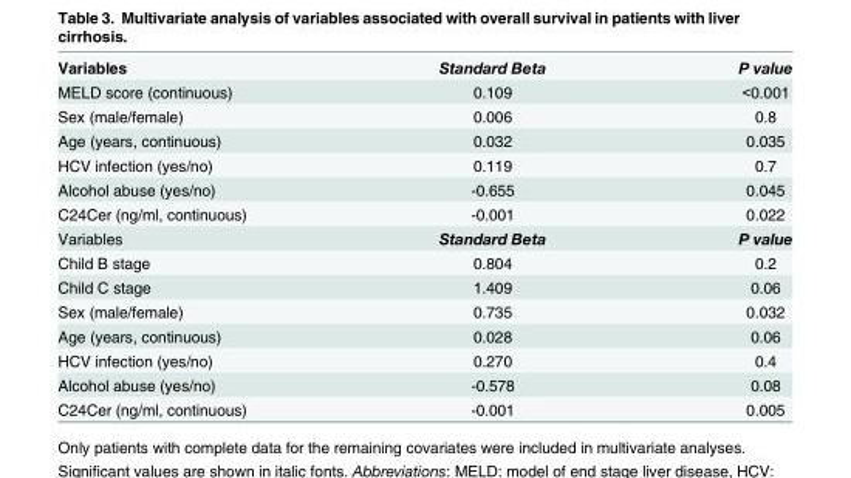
<table><tbody><tr><td>Variables</td><td>Standard Beta</td><td>P value</td></tr><tr><td>MELD score (continuous)</td><td>0.109</td><td>&lt;0.001</td></tr><tr><td>Sex (male/female)</td><td>0.006</td><td>0.8</td></tr><tr><td>Age (years, continuous)</td><td>0.032</td><td>0.035</td></tr><tr><td>HCV infection (yes/no)</td><td>0.119</td><td>0.7</td></tr><tr><td>Alcohol abuse (yes/no)</td><td>-0.655</td><td>0.045</td></tr><tr><td>C24Cer (ng/ml, continuous)</td><td>-0.001</td><td>0.022</td></tr><tr><td>Variables</td><td>Standard Beta</td><td>P value</td></tr><tr><td>Child B stage</td><td>0.804</td><td>0.2</td></tr><tr><td>Child C stage</td><td>1.409</td><td>0.06</td></tr><tr><td>Sex (male/female)</td><td>0.735</td><td>0.032</td></tr><tr><td>Age (years, continuous)</td><td>0.028</td><td>0.06</td></tr><tr><td>HCV infection (yes/no)</td><td>0.270</td><td>0.4</td></tr><tr><td>Alcohol abuse (yes/no)</td><td>-0.578</td><td>0.08</td></tr><tr><td>C24Cer (ng/ml, continuous)</td><td>-0.001</td><td>0.005</td></tr></tbody></table>